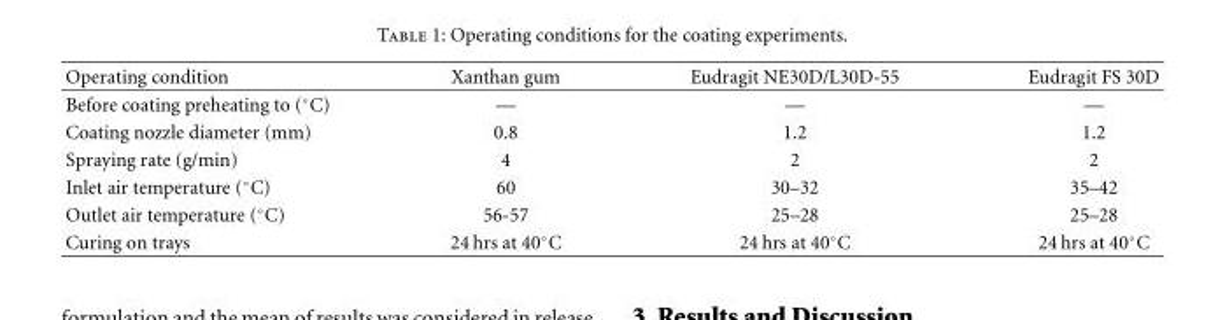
<table><thead><tr><td>Operating condition</td><td>Xanthan gum</td><td>Eudragit NE30D/L30D-55</td><td>Eudragit FS 30D</td></tr></thead><tbody><tr><td>Before coating preheating to (◦C)</td><td>—</td><td>—</td><td>—</td></tr><tr><td>Coating nozzle diameter (mm)</td><td>0.8</td><td>1.2</td><td>1.2</td></tr><tr><td>Spraying rate (g/min)</td><td>4</td><td>2</td><td>2</td></tr><tr><td>Inlet air temperature (◦C)</td><td>60</td><td>30–32</td><td>35–42</td></tr><tr><td>Outlet air temperature (◦C)</td><td>56-57</td><td>25–28</td><td>25–28</td></tr><tr><td>Curing on trays</td><td>24 hrs at 40◦C</td><td>24 hrs at 40◦C</td><td>24 hrs at 40◦C</td></tr></tbody></table>